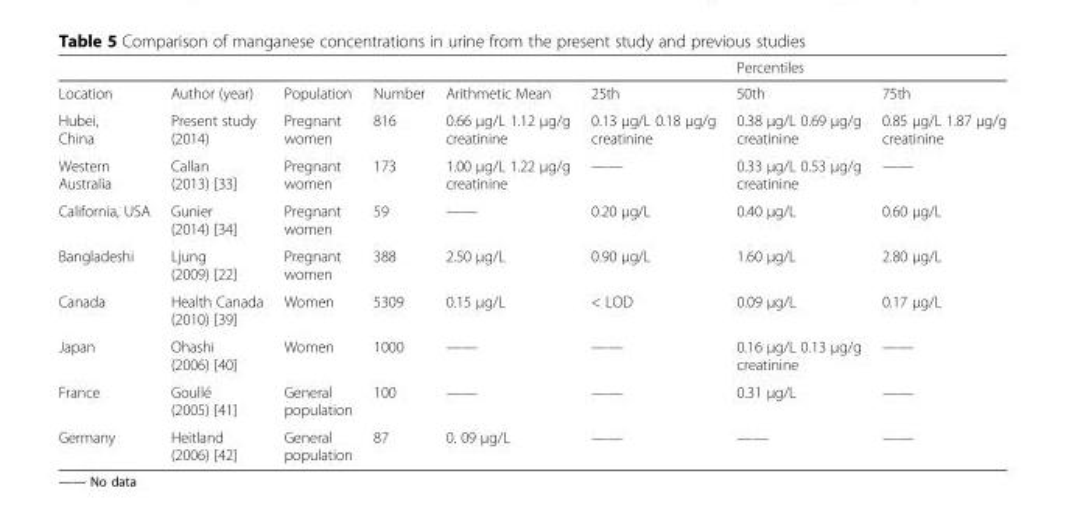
<table><thead><tr><td></td><td></td><td></td><td></td><td></td><td></td><td>Percentiles</td><td></td></tr></thead><tbody><tr><td>Location</td><td>Author (year)</td><td>Population</td><td>Number</td><td>Arithmetic Mean</td><td>25th</td><td>50th</td><td>75th</td></tr><tr><td>Hubei, China</td><td>Present study (2014)</td><td>Pregnant women</td><td>816</td><td>0.66 μg/L 1.12 μg/g creatinine</td><td>0.13 μg/L 0.18 μg/g creatinine</td><td>0.38 μg/L 0.69 μg/g creatinine</td><td>0.85 μg/L 1.87 μg/g creatinine</td></tr><tr><td>Western Australia</td><td>Callan (2013) [33]</td><td>Pregnant women</td><td>173</td><td>1.00 μg/L 1.22 μg/g creatinine</td><td>——</td><td>0.33 μg/L 0.53 μg/g creatinine</td><td>——</td></tr><tr><td>California, USA</td><td>Gunier (2014) [34]</td><td>Pregnant women</td><td>59</td><td>——</td><td>0.20 μg/L</td><td>0.40 μg/L</td><td>0.60 μg/L</td></tr><tr><td>Bangladeshi</td><td>Ljung (2009) [22]</td><td>Pregnant women</td><td>388</td><td>2.50 μg/L</td><td>0.90 μg/L</td><td>1.60 μg/L</td><td>2.80 μg/L</td></tr><tr><td>Canada</td><td>Health Canada (2010) [39]</td><td>Women</td><td>5309</td><td>0.15 μg/L</td><td>&lt; LOD</td><td>0.09 μg/L</td><td>0.17 μg/L</td></tr><tr><td>Japan</td><td>Ohashi (2006) [40]</td><td>Women</td><td>1000</td><td>——</td><td>——</td><td>0.16 μg/L 0.13 μg/g creatinine</td><td>——</td></tr><tr><td>France</td><td>Goullé (2005) [41]</td><td>General population</td><td>100</td><td>——</td><td>——</td><td>0.31 μg/L</td><td>——</td></tr><tr><td>Germany</td><td>Heitland (2006) [42]</td><td>General population</td><td>87</td><td>0. 09 μg/L</td><td>——</td><td>——</td><td>——</td></tr></tbody></table>